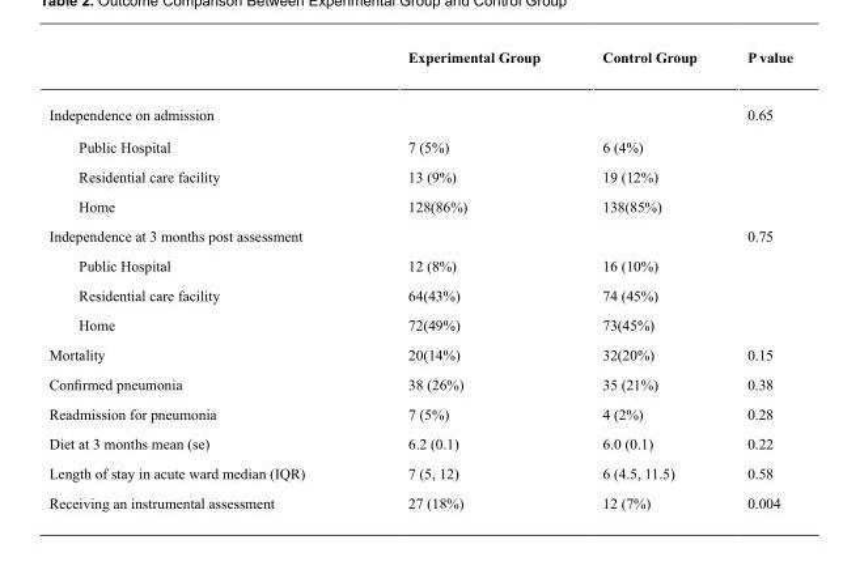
<table><thead><tr><td></td><td>Experimental Group</td><td>Control Group</td><td>P value</td></tr></thead><tbody><tr><td>Independence on admission</td><td></td><td></td><td>0.65</td></tr><tr><td>Public Hospital</td><td>7 (5%)</td><td>6 (4%)</td><td></td></tr><tr><td>Residential care facility</td><td>13 (9%)</td><td>19 (12%)</td><td></td></tr><tr><td>Home</td><td>128(86%)</td><td>138(85%)</td><td></td></tr><tr><td>Independence at 3 months post assessment</td><td></td><td></td><td>0.75</td></tr><tr><td>Public Hospital</td><td>12 (8%)</td><td>16 (10%)</td><td></td></tr><tr><td>Residential care facility</td><td>64(43%)</td><td>74 (45%)</td><td></td></tr><tr><td>Home</td><td>72(49%)</td><td>73(45%)</td><td></td></tr><tr><td>Mortality</td><td>20(14%)</td><td>32(20%)</td><td>0.15</td></tr><tr><td>Confirmed pneumonia</td><td>38 (26%)</td><td>35 (21%)</td><td>0.38</td></tr><tr><td>Readmission for pneumonia</td><td>7 (5%)</td><td>4 (2%)</td><td>0.28</td></tr><tr><td>Diet at 3 months mean (se)</td><td>6.2 (0.1)</td><td>6.0 (0.1)</td><td>0.22</td></tr><tr><td>Length of stay in acute ward median (IQR)</td><td>7 (5, 12)</td><td>6 (4.5, 11.5)</td><td>0.58</td></tr><tr><td>Receiving an instrumental assessment</td><td>27 (18%)</td><td>12 (7%)</td><td>0.004</td></tr></tbody></table>